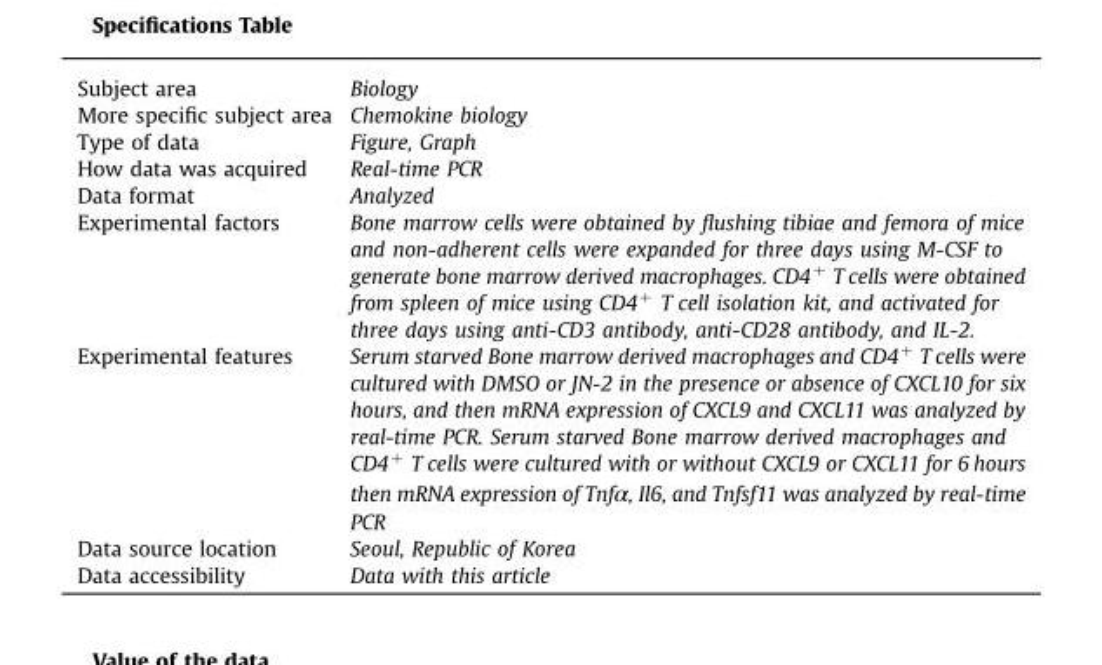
<table><tbody><tr><td>Subject area</td><td>Biology</td></tr><tr><td>More specific subject area</td><td>Chemokine biology</td></tr><tr><td>Type of data</td><td>Figure, Graph</td></tr><tr><td>How data was acquired</td><td>Real-time PCR</td></tr><tr><td>Data format</td><td>Analyzed</td></tr><tr><td>Experimental factors</td><td>Bone marrow cells were obtained by flushing tibiae and femora of mice and non-adherent cells were expanded for three days using M-CSF to generate bone marrow derived macrophages. CD4 <sup>+</sup> T cells were obtained from spleen of mice using CD4<sup>+</sup> T cell isolation kit, and activated for three days using anti-CD3 antibody, anti-CD28 antibody, and IL-2.</td></tr><tr><td>Experimental features</td><td>Serum starved Bone marrow derived macrophages and CD4<sup>+</sup> T cells were cultured with DMSO or JN-2 in the presence or absence of CXCL10 for six hours, and then mRNA expression of CXCL9 and CXCL11 was analyzed by real-time PCR. Serum starved Bone marrow derived macrophages and CD4<sup>+</sup> T cells were cultured with or without CXCL9 or CXCL11 for 6 hours then mRNA expression of Tnfα, Il6, and Tnfsf11 was analyzed by real-time PCR</td></tr><tr><td>Data source location</td><td>Seoul, Republic of Korea</td></tr><tr><td>Data accessibility</td><td>Data with this article</td></tr></tbody></table>